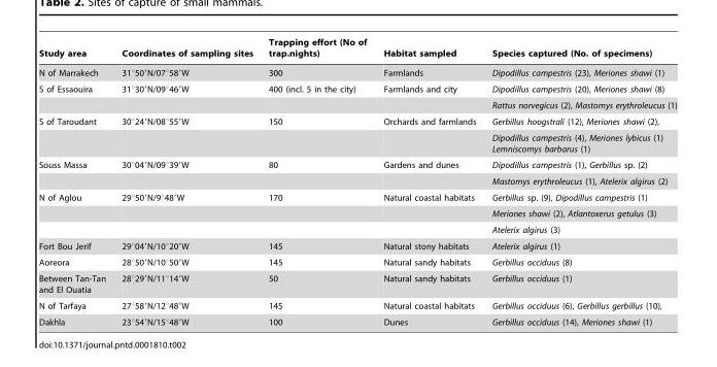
<table><thead><tr><td>Study area</td><td>Coordinates of sampling sites</td><td>Trapping effort (No of trap.nights)</td><td>Habitat sampled</td><td>Species captured (No. of specimens)</td></tr></thead><tbody><tr><td>N of Marrakech</td><td>31°50′N/07°58′W</td><td>300</td><td>Farmlands</td><td>Dipodillus campestris (23), Meriones shawi (1)</td></tr><tr><td rowspan="2">S of Essaouira</td><td>31°30′N/09°46′W</td><td>400 (incl. 5 in the city)</td><td>Farmlands and city</td><td>Dipodillus campestris (20), Meriones shawi (8)</td></tr><tr><td></td><td></td><td></td><td>Rattus norvegicus (2), Mastomys erythroleucus (1)</td></tr><tr><td rowspan="2">S of Taroudant</td><td>30°24′N/08°55′W</td><td>150</td><td>Orchards and farmlands</td><td>Gerbillus hoogstrali (12), Meriones shawi (2),</td></tr><tr><td></td><td></td><td></td><td>Dipodillus campestris (4), Meriones lybicus (1) Lemniscomys barbarus (1)</td></tr><tr><td rowspan="2">Souss Massa</td><td>30°04′N/09°39′W</td><td>80</td><td>Gardens and dunes</td><td>Dipodillus campestris (1), Gerbillus sp. (2)</td></tr><tr><td></td><td></td><td></td><td>Mastomys erythroleucus (1), Atelerix algirus (2)</td></tr><tr><td rowspan="3">N of Aglou</td><td>29°50′N/9°48′W</td><td>170</td><td>Natural coastal habitats</td><td>Gerbillus sp. (9), Dipodillus campestris (1)</td></tr><tr><td></td><td></td><td></td><td>Meriones shawi (2), Atlantoxerus getulus (3)</td></tr><tr><td></td><td></td><td></td><td>Atelerix algirus (3)</td></tr><tr><td>Fort Bou Jerif</td><td>29°04′N/10°20′W</td><td>145</td><td>Natural stony habitats</td><td>Atelerix algirus (1)</td></tr><tr><td>Aoreora</td><td>28°50′N/10°50′W</td><td>145</td><td>Natural sandy habitats</td><td>Gerbillus occiduus (8)</td></tr><tr><td>Between Tan-Tan and El Ouatia</td><td>28°29′N/11°14′W</td><td>50</td><td>Natural sandy habitats</td><td>Gerbillus occiduus (1)</td></tr><tr><td>N of Tarfaya</td><td>27°58′N/12°48′W</td><td>145</td><td>Natural coastal habitats</td><td>Gerbillus occiduus (6), Gerbillus gerbillus (10),</td></tr><tr><td>Dakhla</td><td>23°54′N/15°48′W</td><td>100</td><td>Dunes</td><td>Gerbillus occiduus (14), Meriones shawi (1)</td></tr></tbody></table>